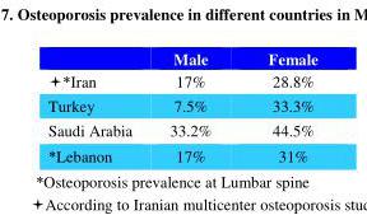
<table><thead><tr><td></td><td>Male</td><td>Female</td></tr></thead><tbody><tr><td>*Iran</td><td>17%</td><td>28.8%</td></tr><tr><td>Turkey</td><td>7.5%</td><td>33.3%</td></tr><tr><td>Saudi Arabia</td><td>33.2%</td><td>44.5%</td></tr><tr><td>*Lebanon</td><td>17%</td><td>31%</td></tr></tbody></table>